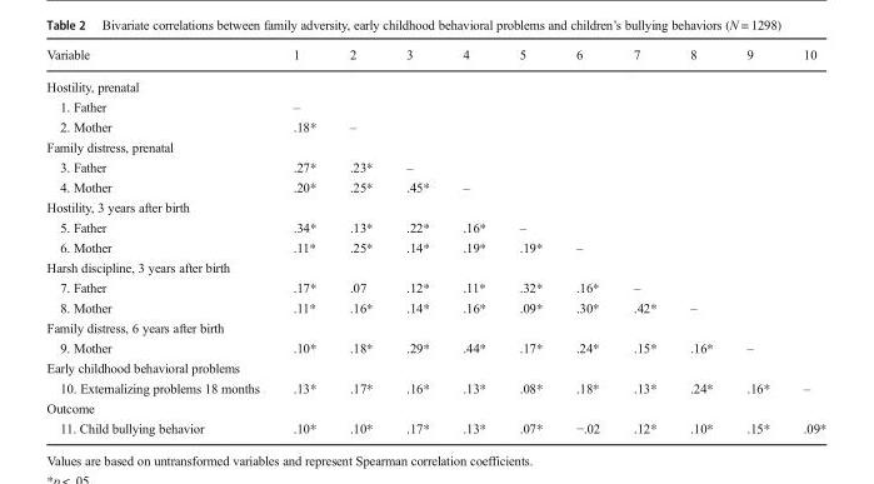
<table><thead><tr><td>Variable</td><td>1</td><td>2</td><td>3</td><td>4</td><td>5</td><td>6</td><td>7</td><td>8</td><td>9</td><td>10</td></tr></thead><tbody><tr><td colspan="11">Hostility, prenatal</td></tr><tr><td>1. Father</td><td>–</td><td></td><td></td><td></td><td></td><td></td><td></td><td></td><td></td><td></td></tr><tr><td>2. Mother</td><td>.18*</td><td>–</td><td></td><td></td><td></td><td></td><td></td><td></td><td></td><td></td></tr><tr><td colspan="11">Family distress, prenatal</td></tr><tr><td>3. Father</td><td>.27*</td><td>.23*</td><td>–</td><td></td><td></td><td></td><td></td><td></td><td></td><td></td></tr><tr><td>4. Mother</td><td>.20*</td><td>.25*</td><td>.45*</td><td>–</td><td></td><td></td><td></td><td></td><td></td><td></td></tr><tr><td colspan="11">Hostility, 3 years after birth</td></tr><tr><td>5. Father</td><td>.34*</td><td>.13*</td><td>.22*</td><td>.16*</td><td>–</td><td></td><td></td><td></td><td></td><td></td></tr><tr><td>6. Mother</td><td>.11*</td><td>.25*</td><td>.14*</td><td>.19*</td><td>.19*</td><td>–</td><td></td><td></td><td></td><td></td></tr><tr><td colspan="11">Harsh discipline, 3 years after birth</td></tr><tr><td>7. Father</td><td>.17*</td><td>.07</td><td>.12*</td><td>.11*</td><td>.32*</td><td>.16*</td><td>–</td><td></td><td></td><td></td></tr><tr><td>8. Mother</td><td>.11*</td><td>.16*</td><td>.14*</td><td>.16*</td><td>.09*</td><td>.30*</td><td>.42*</td><td>–</td><td></td><td></td></tr><tr><td colspan="11">Family distress, 6 years after birth</td></tr><tr><td>9. Mother</td><td>.10*</td><td>.18*</td><td>.29*</td><td>.44*</td><td>.17*</td><td>.24*</td><td>.15*</td><td>.16*</td><td>–</td><td></td></tr><tr><td colspan="11">Early childhood behavioral problems</td></tr><tr><td>10. Externalizing problems 18 months</td><td>.13*</td><td>.17*</td><td>.16*</td><td>.13*</td><td>.08*</td><td>.18*</td><td>.13*</td><td>.24*</td><td>.16*</td><td>–</td></tr><tr><td colspan="11">Outcome</td></tr><tr><td>11. Child bullying behavior</td><td>.10*</td><td>.10*</td><td>.17*</td><td>.13*</td><td>.07*</td><td>−.02</td><td>.12*</td><td>.10*</td><td>.15*</td><td>.09*</td></tr></tbody></table>